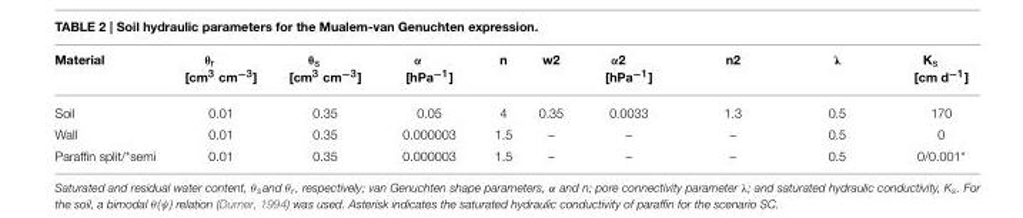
<table><thead><tr><td>Material</td><td>θ<sub>r</sub> [cm<sup>3</sup> cm<sup>−3</sup>]</td><td>θ<sub>s</sub> [cm<sup>3</sup> cm<sup>−3</sup>]</td><td>α [hPa<sup>−1</sup>]</td><td>n</td><td>w2</td><td>α2 [hPa<sup>−1</sup>]</td><td>n2</td><td>λ</td><td>K<sub>s</sub> [cm d<sup>−1</sup>]</td></tr></thead><tbody><tr><td>Soil</td><td>0.01</td><td>0.35</td><td>0.05</td><td>4</td><td>0.35</td><td>0.0033</td><td>1.3</td><td>0.5</td><td>170</td></tr><tr><td>Wall</td><td>0.01</td><td>0.35</td><td>0.000003</td><td>1.5</td><td>–</td><td>–</td><td>–</td><td>0.5</td><td>0</td></tr><tr><td>Paraffin split/*semi</td><td>0.01</td><td>0.35</td><td>0.000003</td><td>1.5</td><td>–</td><td>–</td><td>–</td><td>0.5</td><td>0/0.001*</td></tr></tbody></table>